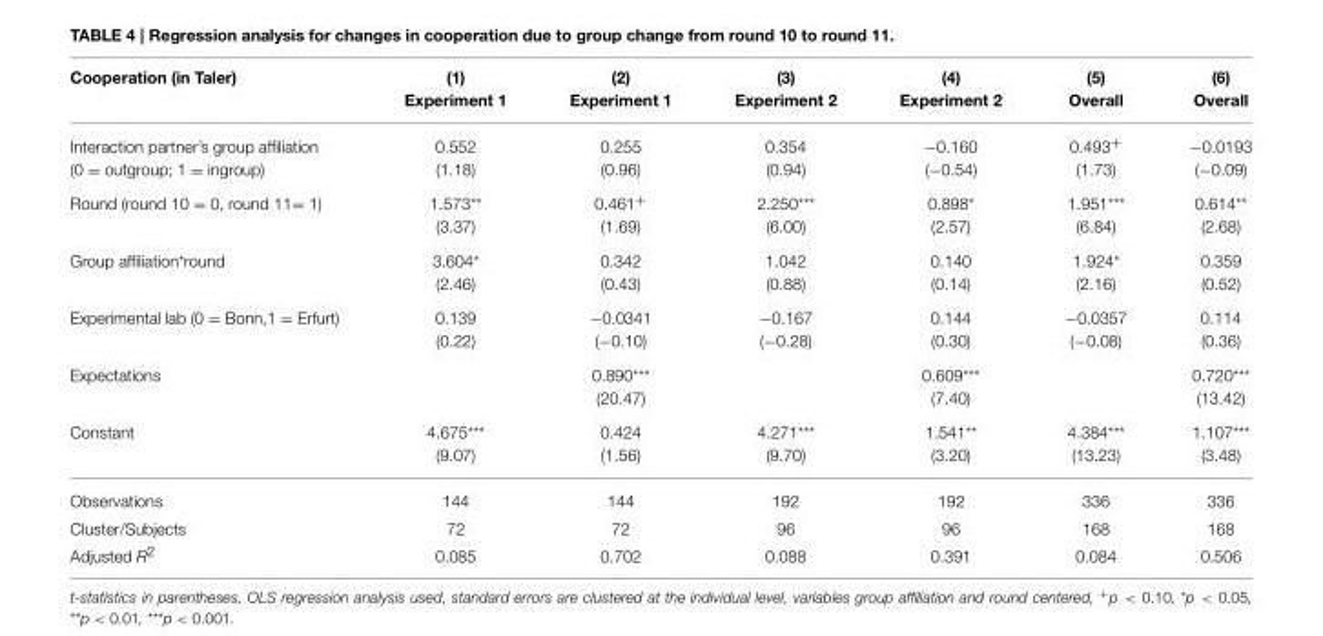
<table><thead><tr><td>Cooperation (in Taler)</td><td>(1) Experiment 1</td><td>(2) Experiment 1</td><td>(3) Experiment 2</td><td>(4) Experiment 2</td><td>(5) Overall</td><td>(6) Overall</td></tr></thead><tbody><tr><td>Interaction partner’s group affiliation</td><td>0.552</td><td>0.255</td><td>0.354</td><td>−0.160</td><td>0.493<sup>+</sup></td><td>−0.0193</td></tr><tr><td>(0 = outgroup; 1 = ingroup)</td><td>(1.18)</td><td>(0.96)</td><td>(0.94)</td><td>(−0.54)</td><td>(1.73)</td><td>(−0.09)</td></tr><tr><td rowspan="2">Round (round 10 = 0, round 11= 1)</td><td>1.573**</td><td>0.461<sup>+</sup></td><td>2.250***</td><td>0.898*</td><td>1.951***</td><td>0.614**</td></tr><tr><td>(3.37)</td><td>(1.69)</td><td>(6.00)</td><td>(2.57)</td><td>(6.84)</td><td>(2.68)</td></tr><tr><td rowspan="2">Group affiliation*round</td><td>3.604*</td><td>0.342</td><td>1.042</td><td>0.140</td><td>1.924*</td><td>0.359</td></tr><tr><td>(2.46)</td><td>(0.43)</td><td>(0.88)</td><td>(0.14)</td><td>(2.16)</td><td>(0.52)</td></tr><tr><td rowspan="2">Experimental lab (0 = Bonn,1 = Erfurt)</td><td>0.139</td><td>−0.0341</td><td>−0.167</td><td>0.144</td><td>−0.0357</td><td>0.114</td></tr><tr><td>(0.22)</td><td>(−0.10)</td><td>(−0.28)</td><td>(0.30)</td><td>(−0.08)</td><td>(0.36)</td></tr><tr><td rowspan="2">Expectations</td><td></td><td>0.890***</td><td></td><td>0.609***</td><td></td><td>0.720***</td></tr><tr><td></td><td>(20.47)</td><td></td><td>(7.40)</td><td></td><td>(13.42)</td></tr><tr><td rowspan="2">Constant</td><td>4.675***</td><td>0.424</td><td>4.271***</td><td>1.541**</td><td>4.384***</td><td>1.107***</td></tr><tr><td>(9.07)</td><td>(1.56)</td><td>(9.70)</td><td>(3.20)</td><td>(13.23)</td><td>(3.48)</td></tr><tr><td>Observations</td><td>144</td><td>144</td><td>192</td><td>192</td><td>336</td><td>336</td></tr><tr><td>Cluster/Subjects</td><td>72</td><td>72</td><td>96</td><td>96</td><td>168</td><td>168</td></tr><tr><td>Adjusted R<sup>2</sup></td><td>0.085</td><td>0.702</td><td>0.088</td><td>0.391</td><td>0.084</td><td>0.506</td></tr></tbody></table>